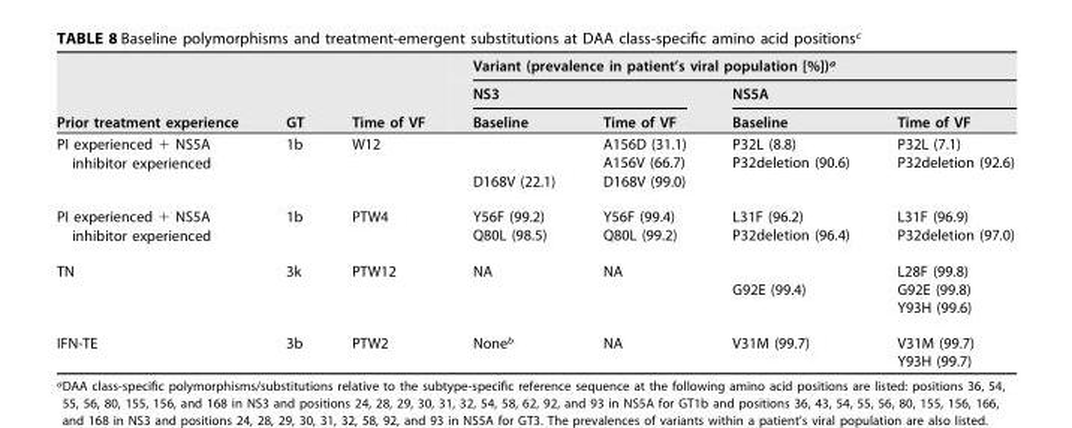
<table><thead><tr><td rowspan="3">Prior treatment experience</td><td rowspan="3">GT</td><td rowspan="3">Time of VF</td><td colspan="4">Variant (prevalence in patient’s viral population [%])<sup>a</sup></td></tr><tr><td colspan="2">NS3</td><td colspan="2">NS5A</td></tr><tr><td>Baseline</td><td>Time of VF</td><td>Baseline</td><td>Time of VF</td></tr></thead><tbody><tr><td rowspan="3">PI experienced + NS5A inhibitor experienced</td><td>1b</td><td>W12</td><td></td><td>A156D (31.1)</td><td>P32L (8.8)</td><td>P32L (7.1)</td></tr><tr><td></td><td></td><td></td><td>A156V (66.7)</td><td>P32deletion (90.6)</td><td>P32deletion (92.6)</td></tr><tr><td></td><td></td><td>D168V (22.1)</td><td>D168V (99.0)</td><td></td><td></td></tr><tr><td rowspan="2">PI experienced + NS5A inhibitor experienced</td><td>1b</td><td>PTW4</td><td>Y56F (99.2)</td><td>Y56F (99.4)</td><td>L31F (96.2)</td><td>L31F (96.9)</td></tr><tr><td></td><td></td><td>Q80L (98.5)</td><td>Q80L (99.2)</td><td>P32deletion (96.4)</td><td>P32deletion (97.0)</td></tr><tr><td rowspan="3">TN</td><td>3k</td><td>PTW12</td><td>NA</td><td>NA</td><td></td><td>L28F (99.8)</td></tr><tr><td></td><td></td><td></td><td></td><td>G92E (99.4)</td><td>G92E (99.8)</td></tr><tr><td></td><td></td><td></td><td></td><td></td><td>Y93H (99.6)</td></tr><tr><td rowspan="2">IFN-TE</td><td>3b</td><td>PTW2</td><td>None<sup>b</sup></td><td>NA</td><td>V31M (99.7)</td><td>V31M (99.7)</td></tr><tr><td></td><td></td><td></td><td></td><td></td><td>Y93H (99.7)</td></tr></tbody></table>